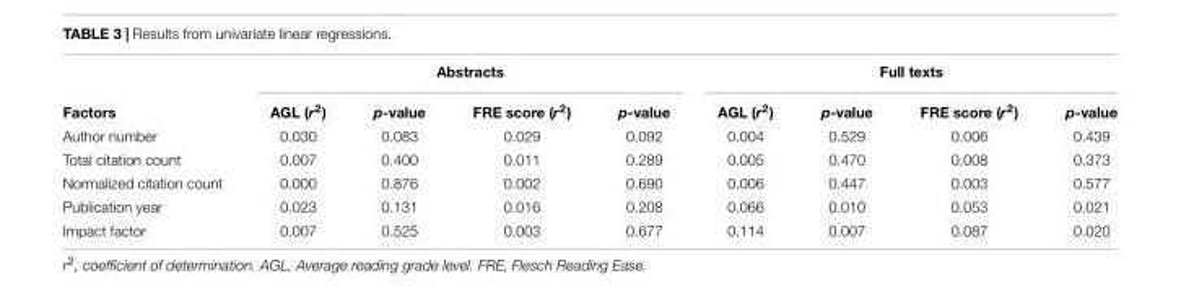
<table><thead><tr><td rowspan="2">Factors</td><td colspan="4">Abstracts</td><td colspan="4">Full texts</td></tr><tr><td>AGL (r<sup>2</sup>)</td><td>p-value</td><td>FRE score (r<sup>2</sup>)</td><td>p-value</td><td>AGL (r<sup>2</sup>)</td><td>p-value</td><td>FRE score (r<sup>2</sup>)</td><td>p-value</td></tr></thead><tbody><tr><td>Author number</td><td>0.030</td><td>0.083</td><td>0.029</td><td>0.092</td><td>0.004</td><td>0.529</td><td>0.006</td><td>0.439</td></tr><tr><td>Total citation count</td><td>0.007</td><td>0.400</td><td>0.011</td><td>0.289</td><td>0.005</td><td>0.470</td><td>0.008</td><td>0.373</td></tr><tr><td>Normalized citation count</td><td>0.000</td><td>0.876</td><td>0.002</td><td>0.690</td><td>0.006</td><td>0.447</td><td>0.003</td><td>0.577</td></tr><tr><td>Publication year</td><td>0.023</td><td>0.131</td><td>0.016</td><td>0.208</td><td>0.066</td><td>0.010</td><td>0.053</td><td>0.021</td></tr><tr><td>Impact factor</td><td>0.007</td><td>0.525</td><td>0.003</td><td>0.677</td><td>0.114</td><td>0.007</td><td>0.087</td><td>0.020</td></tr></tbody></table>